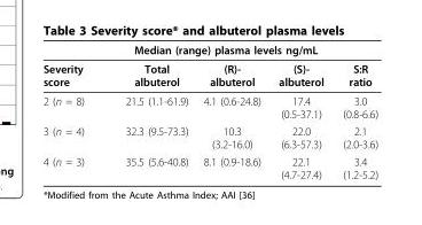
<table><thead><tr><td rowspan="2">Severity score</td><td colspan="3">Median (range) plasma levels ng/mL</td><td rowspan="2">S:R ratio</td></tr><tr><td>Total albuterol</td><td>(R)- albuterol</td><td>(S)- albuterol</td></tr></thead><tbody><tr><td>2 (n = 8)</td><td>21.5 (1.1-61.9)</td><td>4.1 (0.6-24.8)</td><td>17.4 (0.5-37.1)</td><td>3.0 (0.8-6.6)</td></tr><tr><td>3 (n = 4)</td><td>32.3 (9.5-73.3)</td><td>10.3 (3.2-16.0)</td><td>22.0 (6.3-57.3)</td><td>2.1 (2.0-3.6)</td></tr><tr><td>4 (n = 3)</td><td>35.5 (5.6-40.8)</td><td>8.1 (0.9-18.6)</td><td>22.1 (4.7-27.4)</td><td>3.4 (1.2-5.2)</td></tr></tbody></table>